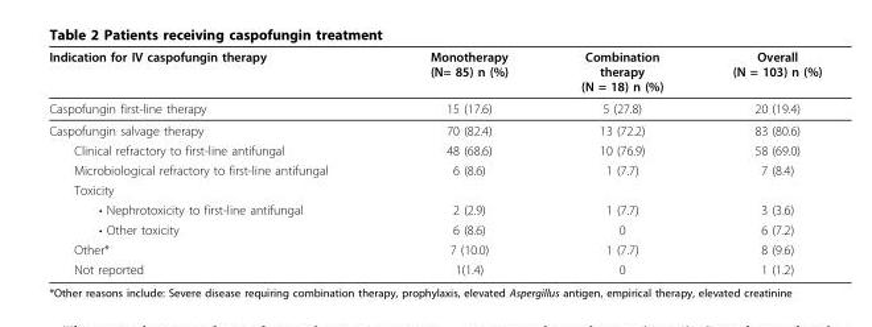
<table><thead><tr><td>Indication for IV caspofungin therapy</td><td>Monotherapy (N= 85) n (%)</td><td>Combination therapy (N = 18) n (%)</td><td>Overall (N = 103) n (%)</td></tr></thead><tbody><tr><td>Caspofungin first-line therapy</td><td>15 (17.6)</td><td>5 (27.8)</td><td>20 (19.4)</td></tr><tr><td>Caspofungin salvage therapy</td><td>70 (82.4)</td><td>13 (72.2)</td><td>83 (80.6)</td></tr><tr><td>Clinical refractory to first-line antifungal</td><td>48 (68.6)</td><td>10 (76.9)</td><td>58 (69.0)</td></tr><tr><td>Microbiological refractory to first-line antifungal</td><td>6 (8.6)</td><td>1 (7.7)</td><td>7 (8.4)</td></tr><tr><td colspan="4">Toxicity</td></tr><tr><td>• Nephrotoxicity to first-line antifungal</td><td>2 (2.9)</td><td>1 (7.7)</td><td>3 (3.6)</td></tr><tr><td>• Other toxicity</td><td>6 (8.6)</td><td>0</td><td>6 (7.2)</td></tr><tr><td>Other*</td><td>7 (10.0)</td><td>1 (7.7)</td><td>8 (9.6)</td></tr><tr><td>Not reported</td><td>1(1.4)</td><td>0</td><td>1 (1.2)</td></tr></tbody></table>